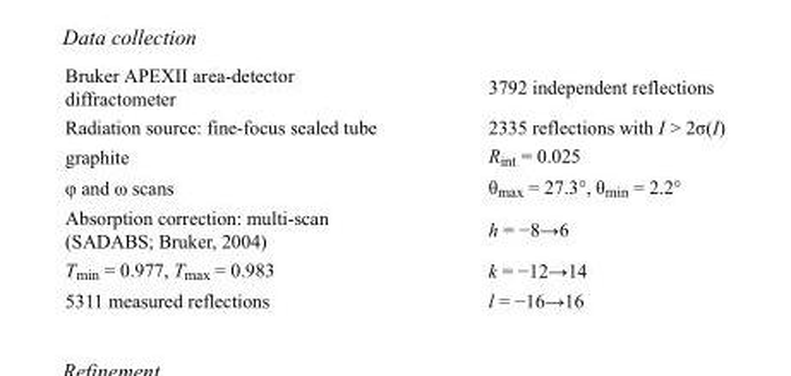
<table><tbody><tr><td>Bruker APEXII area-detector diffractometer</td><td>3792 independent reflections</td></tr><tr><td>Radiation source: fine-focus sealed tube</td><td>2335 reflections with I &gt; 2σ(I)</td></tr><tr><td>graphite</td><td>R<sub>int</sub> = 0.025</td></tr><tr><td>φ and ω scans</td><td>θ<sub>max</sub> = 27.3°, θ<sub>min</sub> = 2.2°</td></tr><tr><td>Absorption correction: multi-scan (SADABS; Bruker, 2004)</td><td>h = −8→6</td></tr><tr><td>T<sub>min</sub> = 0.977, T<sub>max</sub> = 0.983</td><td>k = −12→14</td></tr><tr><td>5311 measured reflections</td><td>l = −16→16</td></tr></tbody></table>